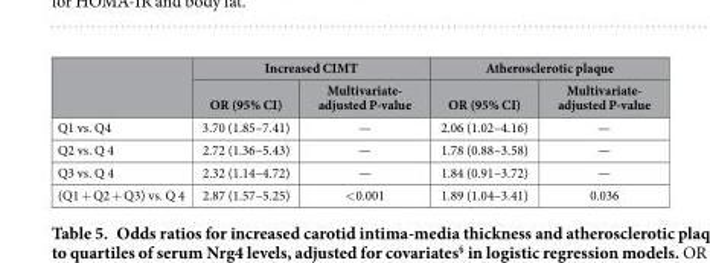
<table><thead><tr><td rowspan="2"></td><td colspan="2">Increased CIMT</td><td colspan="2">Atherosclerotic plaque</td></tr><tr><td>OR (95% CI)</td><td>Multivariate- adjusted P-value</td><td>OR (95% CI)</td><td>Multivariate- adjusted P-value</td></tr></thead><tbody><tr><td>Q1 vs. Q4</td><td>3.70 (1.85–7.41)</td><td>—</td><td>2.06 (1.02–4.16)</td><td>—</td></tr><tr><td>Q2 vs. Q 4</td><td>2.72 (1.36–5.43)</td><td>—</td><td>1.78 (0.88–3.58)</td><td>—</td></tr><tr><td>Q3 vs. Q 4</td><td>2.32 (1.14–4.72)</td><td>—</td><td>1.84 (0.91–3.72)</td><td>—</td></tr><tr><td>(Q1 + Q2 + Q3) vs. Q 4</td><td>2.87 (1.57–5.25)</td><td>&lt; 0.001</td><td>1.89 (1.04–3.41)</td><td>0.036</td></tr></tbody></table>